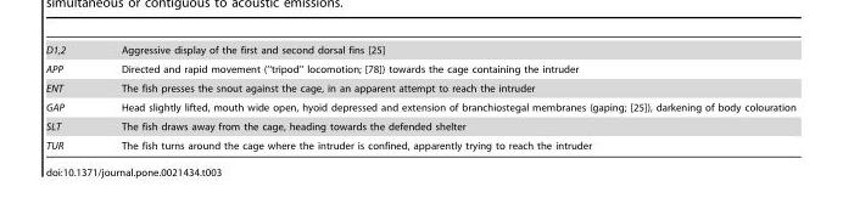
<table><tbody><tr><td>D1,2</td><td>Aggressive display of the first and second dorsal fins [25]</td></tr><tr><td>APP</td><td>Directed and rapid movement (‘‘tripod’’ locomotion; [78]) towards the cage containing the intruder</td></tr><tr><td>ENT</td><td>The fish presses the snout against the cage, in an apparent attempt to reach the intruder</td></tr><tr><td>GAP</td><td>Head slightly lifted, mouth wide open, hyoid depressed and extension of branchiostegal membranes (gaping; [25]), darkening of body colouration</td></tr><tr><td>SLT</td><td>The fish draws away from the cage, heading towards the defended shelter</td></tr><tr><td>TUR</td><td>The fish turns around the cage where the intruder is confined, apparently trying to reach the intruder</td></tr></tbody></table>